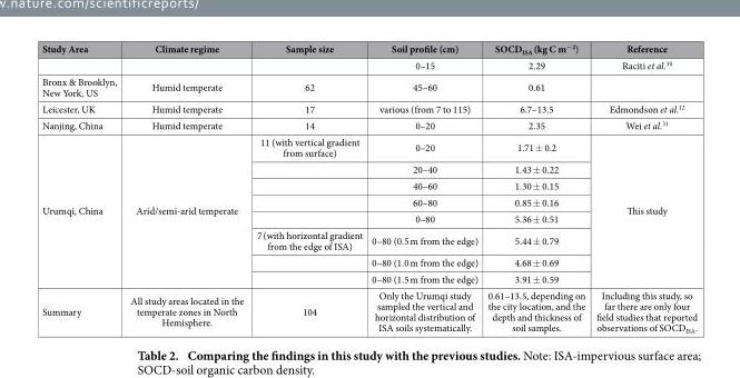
<table><thead><tr><td>Study Area</td><td>Climate regime</td><td>Sample size</td><td>Soil profile (cm)</td><td>SOCD<sub>ISA</sub> (kg C m<sup>−2</sup>)</td><td>Reference</td></tr></thead><tbody><tr><td></td><td></td><td></td><td>0–15</td><td>2.29</td><td>Raciti et al.<sup>30</sup></td></tr><tr><td>Bronx &amp; Brooklyn, New York, US</td><td>Humid temperate</td><td>62</td><td>45–60</td><td>0.61</td><td></td></tr><tr><td>Leicester, UK</td><td>Humid temperate</td><td>17</td><td>various (from 7 to 115)</td><td>6.7–13.5</td><td>Edmondson et al.<sup>12</sup></td></tr><tr><td>Nanjing, China</td><td>Humid temperate</td><td>14</td><td>0–20</td><td>2.35</td><td>Wei et al.<sup>31</sup></td></tr><tr><td rowspan="8">Urumqi, China</td><td rowspan="8">Arid/semi-arid temperate</td><td>11 (with vertical gradient from surface)</td><td>0–20</td><td>1.71 ± 0.2</td><td rowspan="8">This study</td></tr><tr><td></td><td>20–40</td><td>1.43 ± 0.22</td></tr><tr><td></td><td>40–60</td><td>1.30 ± 0.15</td></tr><tr><td></td><td>60–80</td><td>0.85 ± 0.16</td></tr><tr><td></td><td>0–80</td><td>5.36 ± 0.51</td></tr><tr><td>7 (with horizontal gradient from the edge of ISA)</td><td>0–80 (0.5 m from the edge)</td><td>5.44 ± 0.79</td></tr><tr><td></td><td>0–80 (1.0 m from the edge)</td><td>4.68 ± 0.69</td></tr><tr><td></td><td>0–80 (1.5 m from the edge)</td><td>3.91 ± 0.59</td></tr><tr><td>Summary</td><td>All study areas located in the temperate zones in North Hemisphere.</td><td>104</td><td>Only the Urumqi study sampled the vertical and horizontal distribution of ISA soils systematically.</td><td>0.61–13.5, depending on the city location, and the depth and thickness of soil samples.</td><td>Including this study, so far there are only four field studies that reported observations of SOCD<sub>ISA</sub>.</td></tr></tbody></table>